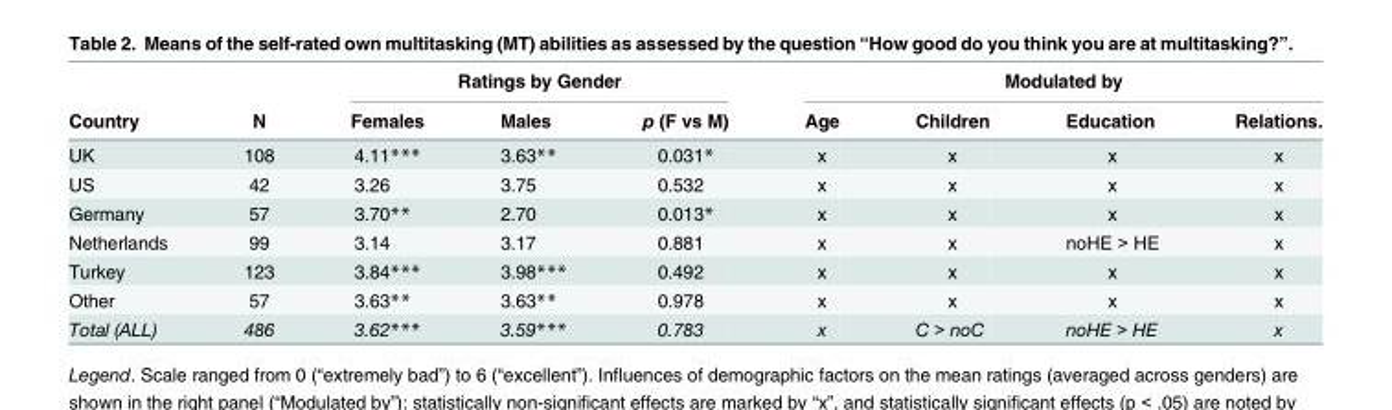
<table><thead><tr><td rowspan="2">Country</td><td rowspan="2">N</td><td colspan="3">Ratings by Gender</td><td colspan="4">Modulated by</td></tr><tr><td>Females</td><td>Males</td><td>p (F vs M)</td><td>Age</td><td>Children</td><td>Education</td><td>Relations.</td></tr></thead><tbody><tr><td>UK</td><td>108</td><td>4.11***</td><td>3.63**</td><td>0.031*</td><td>x</td><td>x</td><td>x</td><td>x</td></tr><tr><td>US</td><td>42</td><td>3.26</td><td>3.75</td><td>0.532</td><td>x</td><td>x</td><td>x</td><td>x</td></tr><tr><td>Germany</td><td>57</td><td>3.70**</td><td>2.70</td><td>0.013*</td><td>x</td><td>x</td><td>x</td><td>x</td></tr><tr><td>Netherlands</td><td>99</td><td>3.14</td><td>3.17</td><td>0.881</td><td>x</td><td>x</td><td>noHE &gt; HE</td><td>x</td></tr><tr><td>Turkey</td><td>123</td><td>3.84***</td><td>3.98***</td><td>0.492</td><td>x</td><td>x</td><td>x</td><td>x</td></tr><tr><td>Other</td><td>57</td><td>3.63**</td><td>3.63**</td><td>0.978</td><td>x</td><td>x</td><td>x</td><td>x</td></tr><tr><td>Total (ALL)</td><td>486</td><td>3.62***</td><td>3.59***</td><td>0.783</td><td>x</td><td>C &gt; noC</td><td>noHE &gt; HE</td><td>x</td></tr></tbody></table>